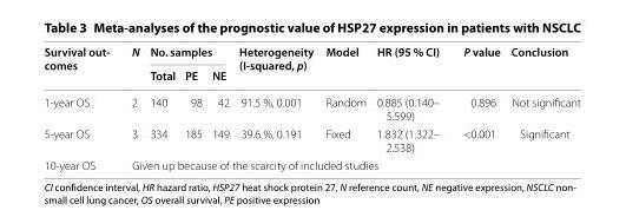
<table><thead><tr><td rowspan="2">Survival out- comes</td><td rowspan="2">N</td><td colspan="3">No. samples</td><td rowspan="2">Heterogeneity (I-squared, p)</td><td rowspan="2">Model</td><td rowspan="2">HR (95 % CI)</td><td rowspan="2">P value</td><td rowspan="2">Conclusion</td></tr><tr><td>Total</td><td>PE</td><td>NE</td></tr></thead><tbody><tr><td>1-year OS</td><td>2</td><td>140</td><td>98</td><td>42</td><td>91.5 %, 0.001</td><td>Random</td><td>0.885 (0.140– 5.599)</td><td>0.896</td><td>Not significant</td></tr><tr><td>5-year OS</td><td>3</td><td>334</td><td>185</td><td>149</td><td>39.6 %, 0.191</td><td>Fixed</td><td>1.832 (1.322– 2.538)</td><td>&lt;0.001</td><td>Significant</td></tr><tr><td>10-year OS</td><td colspan="9">Given up because of the scarcity of included studies</td></tr></tbody></table>